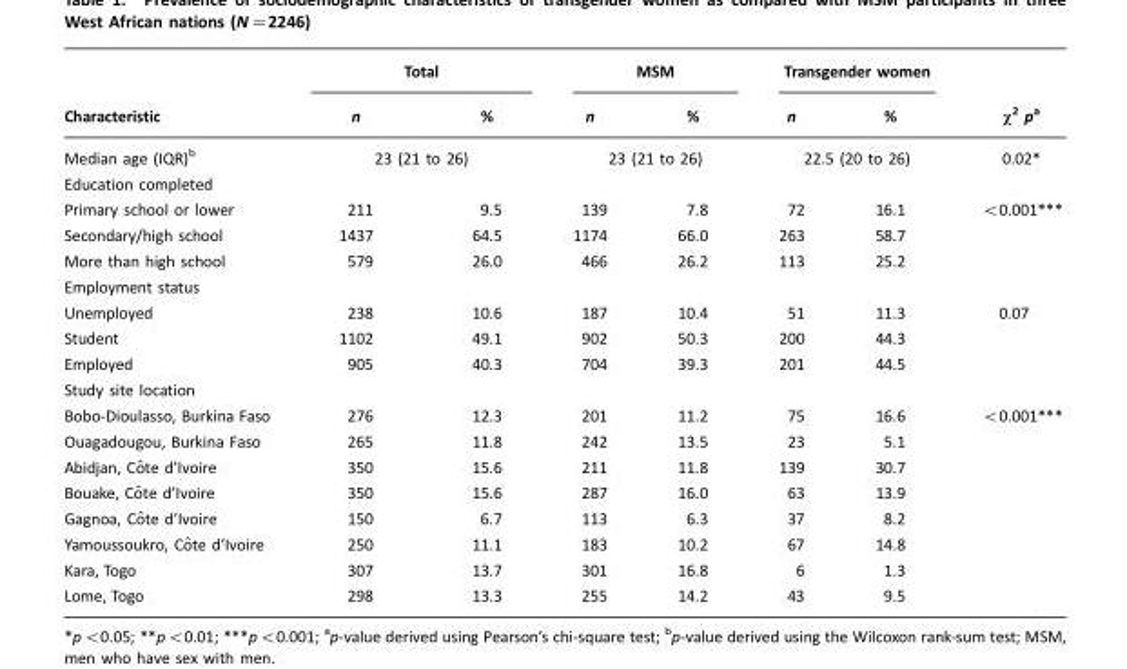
<table><thead><tr><td rowspan="2">Characteristic</td><td colspan="2">Total</td><td colspan="2">MSM</td><td colspan="2">Transgender women</td><td rowspan="2">χ<sup>2</sup> p<sup>a</sup></td></tr><tr><td>n</td><td>%</td><td>n</td><td>%</td><td>n</td><td>%</td></tr></thead><tbody><tr><td>Median age (IQR)<sup>b</sup></td><td colspan="2">23 (21 to 26)</td><td colspan="2">23 (21 to 26)</td><td colspan="2">22.5 (20 to 26)</td><td>0.02*</td></tr><tr><td colspan="8">Education completed</td></tr><tr><td>Primary school or lower</td><td>211</td><td>9.5</td><td>139</td><td>7.8</td><td>72</td><td>16.1</td><td>&lt;0.001***</td></tr><tr><td>Secondary/high school</td><td>1437</td><td>64.5</td><td>1174</td><td>66.0</td><td>263</td><td>58.7</td><td></td></tr><tr><td>More than high school</td><td>579</td><td>26.0</td><td>466</td><td>26.2</td><td>113</td><td>25.2</td><td></td></tr><tr><td colspan="8">Employment status</td></tr><tr><td>Unemployed</td><td>238</td><td>10.6</td><td>187</td><td>10.4</td><td>51</td><td>11.3</td><td>0.07</td></tr><tr><td>Student</td><td>1102</td><td>49.1</td><td>902</td><td>50.3</td><td>200</td><td>44.3</td><td></td></tr><tr><td>Employed</td><td>905</td><td>40.3</td><td>704</td><td>39.3</td><td>201</td><td>44.5</td><td></td></tr><tr><td colspan="8">Study site location</td></tr><tr><td>Bobo-Dioulasso, Burkina Faso</td><td>276</td><td>12.3</td><td>201</td><td>11.2</td><td>75</td><td>16.6</td><td>&lt;0.001***</td></tr><tr><td>Ouagadougou, Burkina Faso</td><td>265</td><td>11.8</td><td>242</td><td>13.5</td><td>23</td><td>5.1</td><td></td></tr><tr><td>Abidjan, Coˆte d’Ivoire</td><td>350</td><td>15.6</td><td>211</td><td>11.8</td><td>139</td><td>30.7</td><td></td></tr><tr><td>Bouake, Coˆte d’Ivoire</td><td>350</td><td>15.6</td><td>287</td><td>16.0</td><td>63</td><td>13.9</td><td></td></tr><tr><td>Gagnoa, Coˆte d’Ivoire</td><td>150</td><td>6.7</td><td>113</td><td>6.3</td><td>37</td><td>8.2</td><td></td></tr><tr><td>Yamoussoukro, Coˆte d’Ivoire</td><td>250</td><td>11.1</td><td>183</td><td>10.2</td><td>67</td><td>14.8</td><td></td></tr><tr><td>Kara, Togo</td><td>307</td><td>13.7</td><td>301</td><td>16.8</td><td>6</td><td>1.3</td><td></td></tr><tr><td>Lome, Togo</td><td>298</td><td>13.3</td><td>255</td><td>14.2</td><td>43</td><td>9.5</td><td></td></tr></tbody></table>